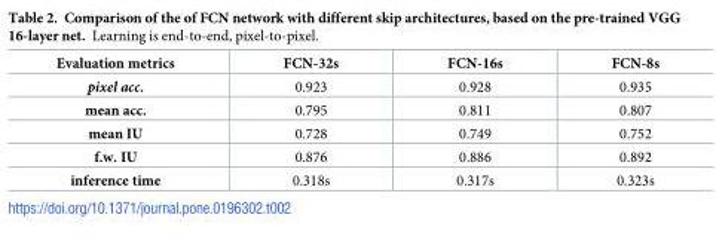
<table><thead><tr><td>Evaluation metrics</td><td>FCN-32s</td><td>FCN-16s</td><td>FCN-8s</td></tr></thead><tbody><tr><td>pixel acc.</td><td>0.923</td><td>0.928</td><td>0.935</td></tr><tr><td>mean acc.</td><td>0.795</td><td>0.811</td><td>0.807</td></tr><tr><td>mean IU</td><td>0.728</td><td>0.749</td><td>0.752</td></tr><tr><td>f.w. IU</td><td>0.876</td><td>0.886</td><td>0.892</td></tr><tr><td>inference time</td><td>0.318s</td><td>0.317s</td><td>0.323s</td></tr></tbody></table>